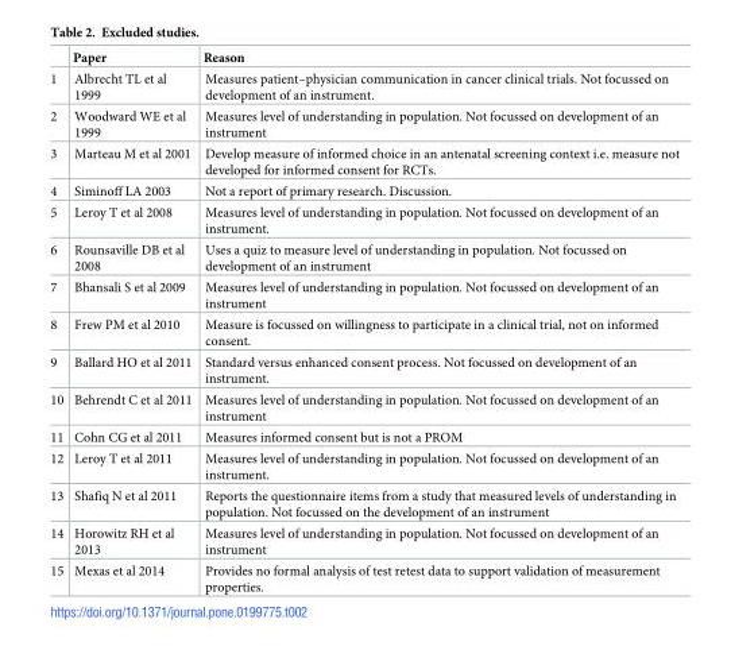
<table><thead><tr><td></td><td>Paper</td><td>Reason</td></tr></thead><tbody><tr><td>1</td><td>Albrecht TL et al 1999</td><td>Measures patient–physician communication in cancer clinical trials. Not focussed on development of an instrument.</td></tr><tr><td>2</td><td>Woodward WE et al 1999</td><td>Measures level of understanding in population. Not focussed on development of an instrument</td></tr><tr><td>3</td><td>Marteau M et al 2001</td><td>Develop measure of informed choice in an antenatal screening context i.e. measure not developed for informed consent for RCTs.</td></tr><tr><td>4</td><td>Siminoff LA 2003</td><td>Not a report of primary research. Discussion.</td></tr><tr><td>5</td><td>Leroy T et al 2008</td><td>Measures level of understanding in population. Not focussed on development of an instrument.</td></tr><tr><td>6</td><td>Rounsaville DB et al 2008</td><td>Uses a quiz to measure level of understanding in population. Not focussed on development of an instrument</td></tr><tr><td>7</td><td>Bhansali S et al 2009</td><td>Measures level of understanding in population. Not focussed on development of an instrument</td></tr><tr><td>8</td><td>Frew PM et al 2010</td><td>Measure is focussed on willingness to participate in a clinical trial, not on informed consent.</td></tr><tr><td>9</td><td>Ballard HO et al 2011</td><td>Standard versus enhanced consent process. Not focussed on development of an instrument.</td></tr><tr><td>10</td><td>Behrendt C et al 2011</td><td>Measures level of understanding in population. Not focussed on development of an instrument</td></tr><tr><td>11</td><td>Cohn CG et al 2011</td><td>Measures informed consent but is not a PROM</td></tr><tr><td>12</td><td>Leroy T et al 2011</td><td>Measures level of understanding in population. Not focussed on development of an instrument.</td></tr><tr><td>13</td><td>Shafiq N et al 2011</td><td>Reports the questionnaire items from a study that measured levels of understanding in population. Not focussed on the development of an instrument</td></tr><tr><td>14</td><td>Horowitz RH et al 2013</td><td>Measures level of understanding in population. Not focussed on development of an instrument</td></tr><tr><td>15</td><td>Mexas et al 2014</td><td>Provides no formal analysis of test retest data to support validation of measurement properties.</td></tr></tbody></table>